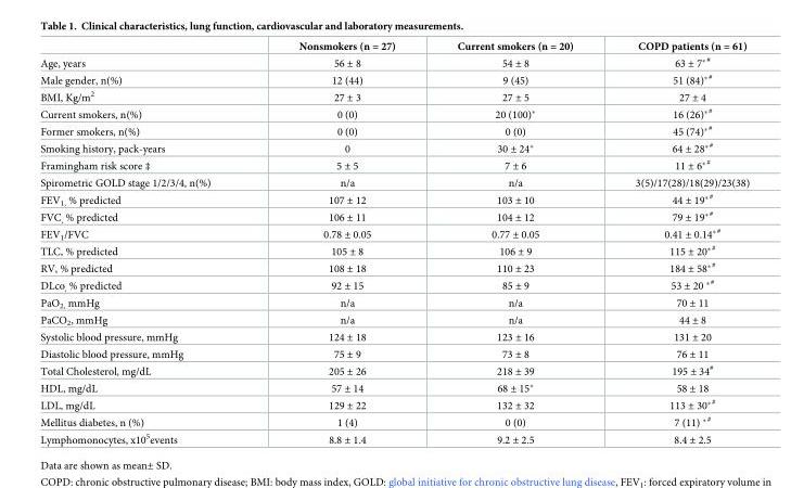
<table><thead><tr><td></td><td>Nonsmokers (n = 27)</td><td>Current smokers (n = 20)</td><td>COPD patients (n = 61)</td></tr></thead><tbody><tr><td>Age, years</td><td>56 ± 8</td><td>54 ± 8</td><td>63 ± 7*<sup>#</sup></td></tr><tr><td>Male gender, n(%)</td><td>12 (44)</td><td>9 (45)</td><td>51 (84)*<sup>#</sup></td></tr><tr><td>BMI, Kg/m<sup>2</sup></td><td>27 ± 3</td><td>27 ± 5</td><td>27 ± 4</td></tr><tr><td>Current smokers, n(%)</td><td>0 (0)</td><td>20 (100)*</td><td>16 (26)*<sup>#</sup></td></tr><tr><td>Former smokers, n(%)</td><td>0 (0)</td><td>0 (0)</td><td>45 (74)*<sup>#</sup></td></tr><tr><td>Smoking history, pack-years</td><td>0</td><td>30 ± 24*</td><td>64 ± 28*<sup>#</sup></td></tr><tr><td>Framingham risk score ‡</td><td>5 ± 5</td><td>7 ± 6</td><td>11 ± 6*<sup>#</sup></td></tr><tr><td>Spirometric GOLD stage 1/2/3/4, n(%)</td><td>n/a</td><td>n/a</td><td>3(5)/17(28)/18(29)/23(38)</td></tr><tr><td>FEV<sub>1,</sub> % predicted</td><td>107 ± 12</td><td>103 ± 10</td><td>44 ± 19*<sup>#</sup></td></tr><tr><td>FVC<sub>,</sub> % predicted</td><td>106 ± 11</td><td>104 ± 12</td><td>79 ± 19*<sup>#</sup></td></tr><tr><td>FEV<sub>1</sub>/FVC</td><td>0.78 ± 0.05</td><td>0.77 ± 0.05</td><td>0.41 ± 0.14*<sup>#</sup></td></tr><tr><td>TLC, % predicted</td><td>105 ± 8</td><td>106 ± 9</td><td>115 ± 20*<sup>#</sup></td></tr><tr><td>RV, % predicted</td><td>108 ± 18</td><td>110 ± 23</td><td>184 ± 58*<sup>#</sup></td></tr><tr><td>DLco<sub>,</sub> % predicted</td><td>92 ± 15</td><td>85 ± 9</td><td>53 ± 20 *<sup>#</sup></td></tr><tr><td>PaO<sub>2,</sub> mmHg</td><td>n/a</td><td>n/a</td><td>70 ± 11</td></tr><tr><td>PaCO<sub>2</sub>, mmHg</td><td>n/a</td><td>n/a</td><td>44 ± 8</td></tr><tr><td>Systolic blood pressure, mmHg</td><td>124 ± 18</td><td>123 ± 16</td><td>131 ± 20</td></tr><tr><td>Diastolic blood pressure, mmHg</td><td>75 ± 9</td><td>73 ± 8</td><td>76 ± 11</td></tr><tr><td>Total Cholesterol, mg/dL</td><td>205 ± 26</td><td>218 ± 39</td><td>195 ± 34<sup>#</sup></td></tr><tr><td>HDL, mg/dL</td><td>57 ± 14</td><td>68 ± 15*</td><td>58 ± 18</td></tr><tr><td>LDL, mg/dL</td><td>129 ± 22</td><td>132 ± 32</td><td>113 ± 30*<sup>#</sup></td></tr><tr><td>Mellitus diabetes, n (%)</td><td>1 (4)</td><td>0 (0)</td><td>7 (11) *<sup>#</sup></td></tr><tr><td>Lymphomonocytes, x10<sup>5</sup>events</td><td>8.8 ± 1.4</td><td>9.2 ± 2.5</td><td>8.4 ± 2.5</td></tr></tbody></table>